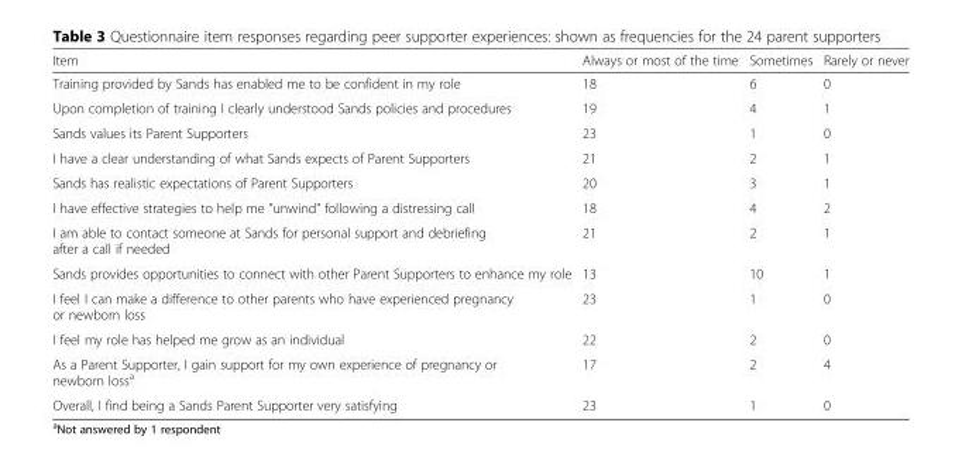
<table><thead><tr><td>Item</td><td>Always or most of the time</td><td>Sometimes</td><td>Rarely or never</td></tr></thead><tbody><tr><td>Training provided by Sands has enabled me to be confident in my role</td><td>18</td><td>6</td><td>0</td></tr><tr><td>Upon completion of training I clearly understood Sands policies and procedures</td><td>19</td><td>4</td><td>1</td></tr><tr><td>Sands values its Parent Supporters</td><td>23</td><td>1</td><td>0</td></tr><tr><td>I have a clear understanding of what Sands expects of Parent Supporters</td><td>21</td><td>2</td><td>1</td></tr><tr><td>Sands has realistic expectations of Parent Supporters</td><td>20</td><td>3</td><td>1</td></tr><tr><td>I have effective strategies to help me &quot;unwind&quot; following a distressing call</td><td>18</td><td>4</td><td>2</td></tr><tr><td>I am able to contact someone at Sands for personal support and debriefing after a call if needed</td><td>21</td><td>2</td><td>1</td></tr><tr><td>Sands provides opportunities to connect with other Parent Supporters to enhance my role</td><td>13</td><td>10</td><td>1</td></tr><tr><td>I feel I can make a difference to other parents who have experienced pregnancy or newborn loss</td><td>23</td><td>1</td><td>0</td></tr><tr><td>I feel my role has helped me grow as an individual</td><td>22</td><td>2</td><td>0</td></tr><tr><td>As a Parent Supporter, I gain support for my own experience of pregnancy or newborn loss<sup>a</sup></td><td>17</td><td>2</td><td>4</td></tr><tr><td>Overall, I find being a Sands Parent Supporter very satisfying</td><td>23</td><td>1</td><td>0</td></tr></tbody></table>